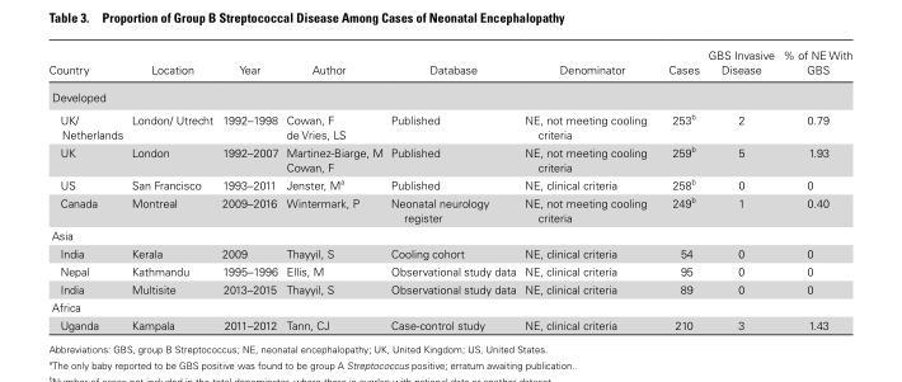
<table><thead><tr><td>Country</td><td>Location</td><td>Year</td><td>Author</td><td>Database</td><td>Denominator</td><td>Cases</td><td>GBS Invasive Disease</td><td>% of NE With GBS</td></tr><tr><td colspan="9">Developed</td></tr></thead><tbody><tr><td>UK/ Netherlands</td><td>London/ Utrecht</td><td>1992–1998</td><td>Cowan, F de Vries, LS</td><td>Published</td><td>NE, not meeting cooling criteria</td><td>253<sup>b</sup></td><td>2</td><td>0.79</td></tr><tr><td>UK</td><td>London</td><td>1992–2007</td><td>Martinez-Biarge, M Cowan, F</td><td>Published</td><td>NE, not meeting cooling criteria</td><td>259<sup>b</sup></td><td>5</td><td>1.93</td></tr><tr><td>US</td><td>San Francisco</td><td>1993–2011</td><td>Jenster, M<sup>a</sup></td><td>Published</td><td>NE, clinical criteria</td><td>258<sup>b</sup></td><td>0</td><td>0</td></tr><tr><td>Canada</td><td>Montreal</td><td>2009–2016</td><td>Wintermark, P</td><td>Neonatal neurology register</td><td>NE, not meeting cooling criteria</td><td>249<sup>b</sup></td><td>1</td><td>0.40</td></tr><tr><td colspan="9">Asia</td></tr><tr><td>India</td><td>Kerala</td><td>2009</td><td>Thayyil, S</td><td>Cooling cohort</td><td>NE, clinical criteria</td><td>54</td><td>0</td><td>0</td></tr><tr><td>Nepal</td><td>Kathmandu</td><td>1995–1996</td><td>Ellis, M</td><td>Observational study data</td><td>NE, clinical criteria</td><td>95</td><td>0</td><td>0</td></tr><tr><td>India</td><td>Multisite</td><td>2013–2015</td><td>Thayyil, S</td><td>Observational study data</td><td>NE, clinical criteria</td><td>89</td><td>0</td><td>0</td></tr><tr><td colspan="9">Africa</td></tr><tr><td>Uganda</td><td>Kampala</td><td>2011–2012</td><td>Tann, CJ</td><td>Case-control study</td><td>NE, clinical criteria</td><td>210</td><td>3</td><td>1.43</td></tr></tbody></table>